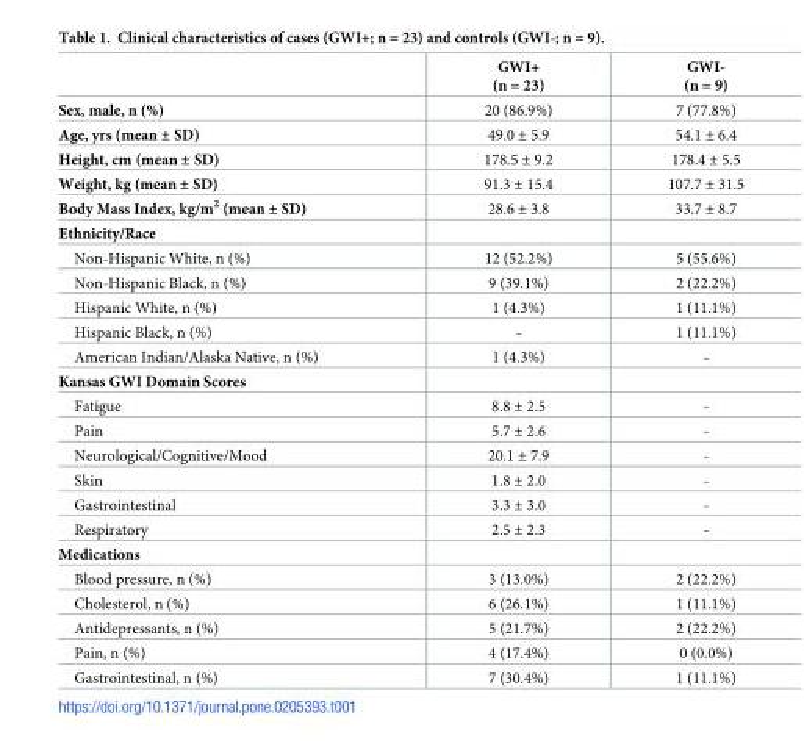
<table><thead><tr><td></td><td>GWI+ (n = 23)</td><td>GWI- (n = 9)</td></tr></thead><tbody><tr><td>Sex, male, n (%)</td><td>20 (86.9%)</td><td>7 (77.8%)</td></tr><tr><td>Age, yrs (mean ± SD)</td><td>49.0 ± 5.9</td><td>54.1 ± 6.4</td></tr><tr><td>Height, cm (mean ± SD)</td><td>178.5 ± 9.2</td><td>178.4 ± 5.5</td></tr><tr><td>Weight, kg (mean ± SD)</td><td>91.3 ± 15.4</td><td>107.7 ± 31.5</td></tr><tr><td>Body Mass Index, kg/m<sup>2</sup> (mean ± SD)</td><td>28.6 ± 3.8</td><td>33.7 ± 8.7</td></tr><tr><td colspan="3">Ethnicity/Race</td></tr><tr><td>Non-Hispanic White, n (%)</td><td>12 (52.2%)</td><td>5 (55.6%)</td></tr><tr><td>Non-Hispanic Black, n (%)</td><td>9 (39.1%)</td><td>2 (22.2%)</td></tr><tr><td>Hispanic White, n (%)</td><td>1 (4.3%)</td><td>1 (11.1%)</td></tr><tr><td>Hispanic Black, n (%)</td><td>-</td><td>1 (11.1%)</td></tr><tr><td>American Indian/Alaska Native, n (%)</td><td>1 (4.3%)</td><td>-</td></tr><tr><td colspan="3">Kansas GWI Domain Scores</td></tr><tr><td>Fatigue</td><td>8.8 ± 2.5</td><td>-</td></tr><tr><td>Pain</td><td>5.7 ± 2.6</td><td>-</td></tr><tr><td>Neurological/Cognitive/Mood</td><td>20.1 ± 7.9</td><td>-</td></tr><tr><td>Skin</td><td>1.8 ± 2.0</td><td>-</td></tr><tr><td>Gastrointestinal</td><td>3.3 ± 3.0</td><td>-</td></tr><tr><td>Respiratory</td><td>2.5 ± 2.3</td><td>-</td></tr><tr><td colspan="3">Medications</td></tr><tr><td>Blood pressure, n (%)</td><td>3 (13.0%)</td><td>2 (22.2%)</td></tr><tr><td>Cholesterol, n (%)</td><td>6 (26.1%)</td><td>1 (11.1%)</td></tr><tr><td>Antidepressants, n (%)</td><td>5 (21.7%)</td><td>2 (22.2%)</td></tr><tr><td>Pain, n (%)</td><td>4 (17.4%)</td><td>0 (0.0%)</td></tr><tr><td>Gastrointestinal, n (%)</td><td>7 (30.4%)</td><td>1 (11.1%)</td></tr></tbody></table>